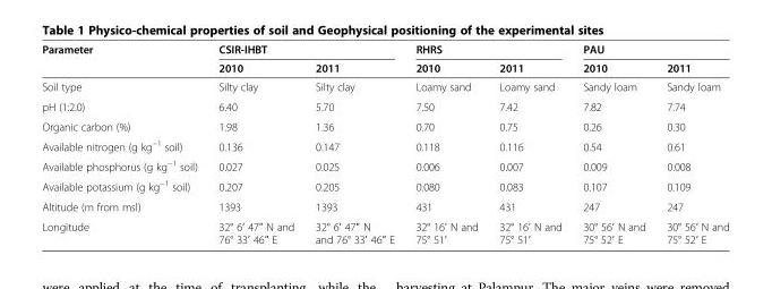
<table><thead><tr><td rowspan="2">Parameter</td><td colspan="2">CSIR-IHBT</td><td colspan="2">RHRS</td><td colspan="2">PAU</td></tr><tr><td>2010</td><td>2011</td><td>2010</td><td>2011</td><td>2010</td><td>2011</td></tr></thead><tbody><tr><td>Soil type</td><td>Silty clay</td><td>Silty clay</td><td>Loamy sand</td><td>Loamy sand</td><td>Sandy loam</td><td>Sandy loam</td></tr><tr><td>pH (1:2.0)</td><td>6.40</td><td>5.70</td><td>7.50</td><td>7.42</td><td>7.82</td><td>7.74</td></tr><tr><td>Organic carbon (%)</td><td>1.98</td><td>1.36</td><td>0.70</td><td>0.75</td><td>0.26</td><td>0.30</td></tr><tr><td>Available nitrogen (g kg<sup>−1</sup> soil)</td><td>0.136</td><td>0.147</td><td>0.118</td><td>0.116</td><td>0.54</td><td>0.61</td></tr><tr><td>Available phosphorus (g kg<sup>−1</sup> soil)</td><td>0.027</td><td>0.025</td><td>0.006</td><td>0.007</td><td>0.009</td><td>0.008</td></tr><tr><td>Available potassium (g kg<sup>−1</sup> soil)</td><td>0.207</td><td>0.205</td><td>0.080</td><td>0.083</td><td>0.107</td><td>0.109</td></tr><tr><td>Altitude (m from msl)</td><td>1393</td><td>1393</td><td>431</td><td>431</td><td>247</td><td>247</td></tr><tr><td>Longitude</td><td>32° 6′ 47″ N and 76° 33′ 46″ E</td><td>32° 6′ 47″ N and 76° 33′ 46″ E</td><td>32° 16′ N and 75° 51′</td><td>32° 16′ N and 75° 51′</td><td>30° 56′ N and 75° 52′ E</td><td>30° 56′ N and 75° 52′ E</td></tr></tbody></table>